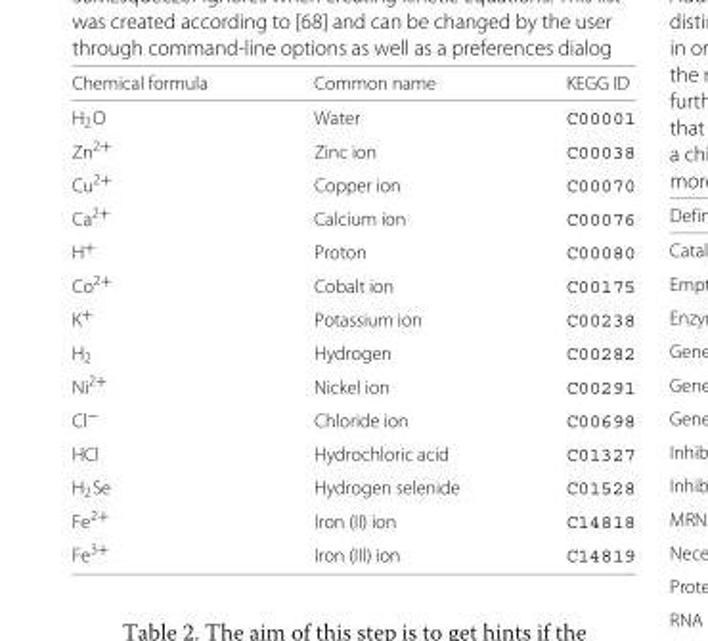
<table><thead><tr><td>Chemical formula</td><td>Common name</td><td>KEGG ID</td></tr></thead><tbody><tr><td>H<sub>2</sub>O</td><td>Water</td><td>C00001</td></tr><tr><td>Zn<sup>2+</sup></td><td>Zinc ion</td><td>C00038</td></tr><tr><td>Cu<sup>2+</sup></td><td>Copper ion</td><td>C00070</td></tr><tr><td>Ca<sup>2+</sup></td><td>Calcium ion</td><td>C00076</td></tr><tr><td>H<sup>+</sup></td><td>Proton</td><td>C00080</td></tr><tr><td>Co<sup>2+</sup></td><td>Cobalt ion</td><td>C00175</td></tr><tr><td>K<sup>+</sup></td><td>Potassium ion</td><td>C00238</td></tr><tr><td>H<sub>2</sub></td><td>Hydrogen</td><td>C00282</td></tr><tr><td>Ni<sup>2+</sup></td><td>Nickel ion</td><td>C00291</td></tr><tr><td>Cl<sup>−</sup></td><td>Chloride ion</td><td>C00698</td></tr><tr><td>HCl</td><td>Hydrochloric acid</td><td>C01327</td></tr><tr><td>H<sub>2</sub>Se</td><td>Hydrogen selenide</td><td>C01528</td></tr><tr><td>Fe<sup>2+</sup></td><td>Iron (II) ion</td><td>C14818</td></tr><tr><td>Fe<sup>3+</sup></td><td>Iron (III) ion</td><td>C14819</td></tr></tbody></table>